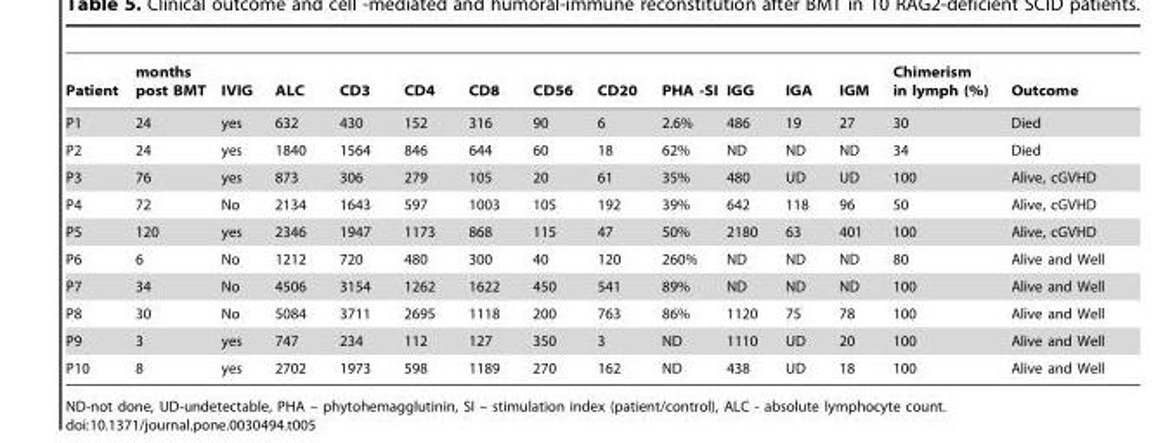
<table><thead><tr><td>Patient</td><td>months post BMT</td><td>IVIG</td><td>ALC</td><td>CD3</td><td>CD4</td><td>CD8</td><td>CD56</td><td>CD20</td><td>PHA -SI</td><td>IGG</td><td>IGA</td><td>IGM</td><td>Chimerism in lymph (%)</td><td>Outcome</td></tr></thead><tbody><tr><td>P1</td><td>24</td><td>yes</td><td>632</td><td>430</td><td>152</td><td>316</td><td>90</td><td>6</td><td>2.6%</td><td>486</td><td>19</td><td>27</td><td>30</td><td>Died</td></tr><tr><td>P2</td><td>24</td><td>yes</td><td>1840</td><td>1564</td><td>846</td><td>644</td><td>60</td><td>18</td><td>62%</td><td>ND</td><td>ND</td><td>ND</td><td>34</td><td>Died</td></tr><tr><td>P3</td><td>76</td><td>yes</td><td>873</td><td>306</td><td>279</td><td>105</td><td>20</td><td>61</td><td>35%</td><td>480</td><td>UD</td><td>UD</td><td>100</td><td>Alive, cGVHD</td></tr><tr><td>P4</td><td>72</td><td>No</td><td>2134</td><td>1643</td><td>597</td><td>1003</td><td>105</td><td>192</td><td>39%</td><td>642</td><td>118</td><td>96</td><td>50</td><td>Alive, cGVHD</td></tr><tr><td>P5</td><td>120</td><td>yes</td><td>2346</td><td>1947</td><td>1173</td><td>868</td><td>115</td><td>47</td><td>50%</td><td>2180</td><td>63</td><td>401</td><td>100</td><td>Alive, cGVHD</td></tr><tr><td>P6</td><td>6</td><td>No</td><td>1212</td><td>720</td><td>480</td><td>300</td><td>40</td><td>120</td><td>260%</td><td>ND</td><td>ND</td><td>ND</td><td>80</td><td>Alive and Well</td></tr><tr><td>P7</td><td>34</td><td>No</td><td>4506</td><td>3154</td><td>1262</td><td>1622</td><td>450</td><td>541</td><td>89%</td><td>ND</td><td>ND</td><td>ND</td><td>100</td><td>Alive and Well</td></tr><tr><td>P8</td><td>30</td><td>No</td><td>5084</td><td>3711</td><td>2695</td><td>1118</td><td>200</td><td>763</td><td>86%</td><td>1120</td><td>75</td><td>78</td><td>100</td><td>Alive and Well</td></tr><tr><td>P9</td><td>3</td><td>yes</td><td>747</td><td>234</td><td>112</td><td>127</td><td>350</td><td>3</td><td>ND</td><td>1110</td><td>UD</td><td>20</td><td>100</td><td>Alive and Well</td></tr><tr><td>P10</td><td>8</td><td>yes</td><td>2702</td><td>1973</td><td>598</td><td>1189</td><td>270</td><td>162</td><td>ND</td><td>438</td><td>UD</td><td>18</td><td>100</td><td>Alive and Well</td></tr></tbody></table>